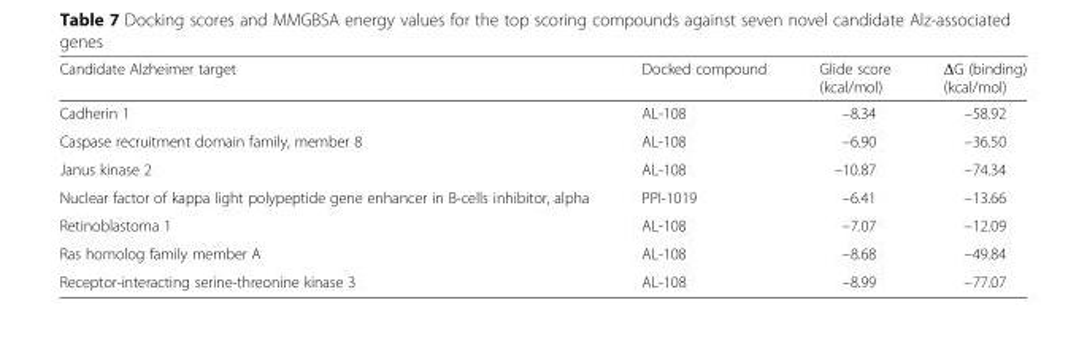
<table><thead><tr><td>Candidate Alzheimer target</td><td>Docked compound</td><td>Glide score (kcal/mol)</td><td>ΔG (binding) (kcal/mol)</td></tr></thead><tbody><tr><td>Cadherin 1</td><td>AL-108</td><td>–8.34</td><td>–58.92</td></tr><tr><td>Caspase recruitment domain family, member 8</td><td>AL-108</td><td>–6.90</td><td>–36.50</td></tr><tr><td>Janus kinase 2</td><td>AL-108</td><td>–10.87</td><td>–74.34</td></tr><tr><td>Nuclear factor of kappa light polypeptide gene enhancer in B-cells inhibitor, alpha</td><td>PPI-1019</td><td>–6.41</td><td>–13.66</td></tr><tr><td>Retinoblastoma 1</td><td>AL-108</td><td>–7.07</td><td>–12.09</td></tr><tr><td>Ras homolog family member A</td><td>AL-108</td><td>–8.68</td><td>–49.84</td></tr><tr><td>Receptor-interacting serine-threonine kinase 3</td><td>AL-108</td><td>–8.99</td><td>–77.07</td></tr></tbody></table>